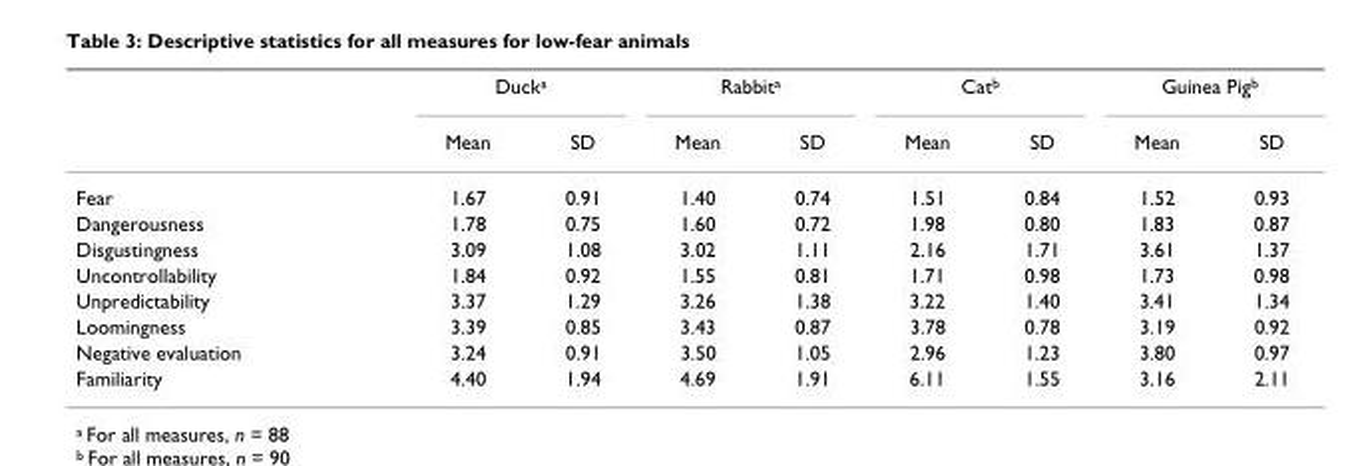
<table><thead><tr><td rowspan="2"></td><td colspan="2">Duck<sup>a</sup></td><td colspan="2">Rabbit<sup>a</sup></td><td colspan="2">Cat<sup>b</sup></td><td colspan="2">Guinea Pig<sup>b</sup></td></tr><tr><td>Mean</td><td>SD</td><td>Mean</td><td>SD</td><td>Mean</td><td>SD</td><td>Mean</td><td>SD</td></tr></thead><tbody><tr><td>Fear</td><td>1.67</td><td>0.91</td><td>1.40</td><td>0.74</td><td>1.51</td><td>0.84</td><td>1.52</td><td>0.93</td></tr><tr><td>Dangerousness</td><td>1.78</td><td>0.75</td><td>1.60</td><td>0.72</td><td>1.98</td><td>0.80</td><td>1.83</td><td>0.87</td></tr><tr><td>Disgustingness</td><td>3.09</td><td>1.08</td><td>3.02</td><td>1.11</td><td>2.16</td><td>1.71</td><td>3.61</td><td>1.37</td></tr><tr><td>Uncontrollability</td><td>1.84</td><td>0.92</td><td>1.55</td><td>0.81</td><td>1.71</td><td>0.98</td><td>1.73</td><td>0.98</td></tr><tr><td>Unpredictability</td><td>3.37</td><td>1.29</td><td>3.26</td><td>1.38</td><td>3.22</td><td>1.40</td><td>3.41</td><td>1.34</td></tr><tr><td>Loomingness</td><td>3.39</td><td>0.85</td><td>3.43</td><td>0.87</td><td>3.78</td><td>0.78</td><td>3.19</td><td>0.92</td></tr><tr><td>Negative evaluation</td><td>3.24</td><td>0.91</td><td>3.50</td><td>1.05</td><td>2.96</td><td>1.23</td><td>3.80</td><td>0.97</td></tr><tr><td>Familiarity</td><td>4.40</td><td>1.94</td><td>4.69</td><td>1.91</td><td>6.11</td><td>1.55</td><td>3.16</td><td>2.11</td></tr></tbody></table>